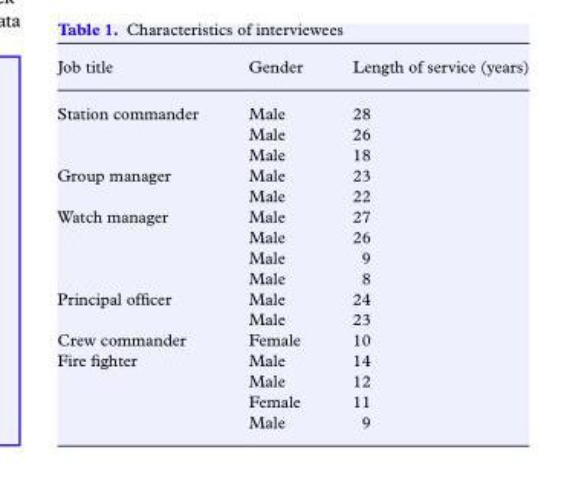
<table><thead><tr><td>Job title</td><td>Gender</td><td>Length of service (years)</td></tr></thead><tbody><tr><td rowspan="3">Station commander</td><td>Male</td><td>28</td></tr><tr><td>Male</td><td>26</td></tr><tr><td>Male</td><td>18</td></tr><tr><td rowspan="2">Group manager</td><td>Male</td><td>23</td></tr><tr><td>Male</td><td>22</td></tr><tr><td rowspan="4">Watch manager</td><td>Male</td><td>27</td></tr><tr><td>Male</td><td>26</td></tr><tr><td>Male</td><td>9</td></tr><tr><td>Male</td><td>8</td></tr><tr><td rowspan="2">Principal officer</td><td>Male</td><td>24</td></tr><tr><td>Male</td><td>23</td></tr><tr><td>Crew commander</td><td>Female</td><td>10</td></tr><tr><td rowspan="4">Fire fighter</td><td>Male</td><td>14</td></tr><tr><td>Male</td><td>12</td></tr><tr><td>Female</td><td>11</td></tr><tr><td>Male</td><td>9</td></tr></tbody></table>